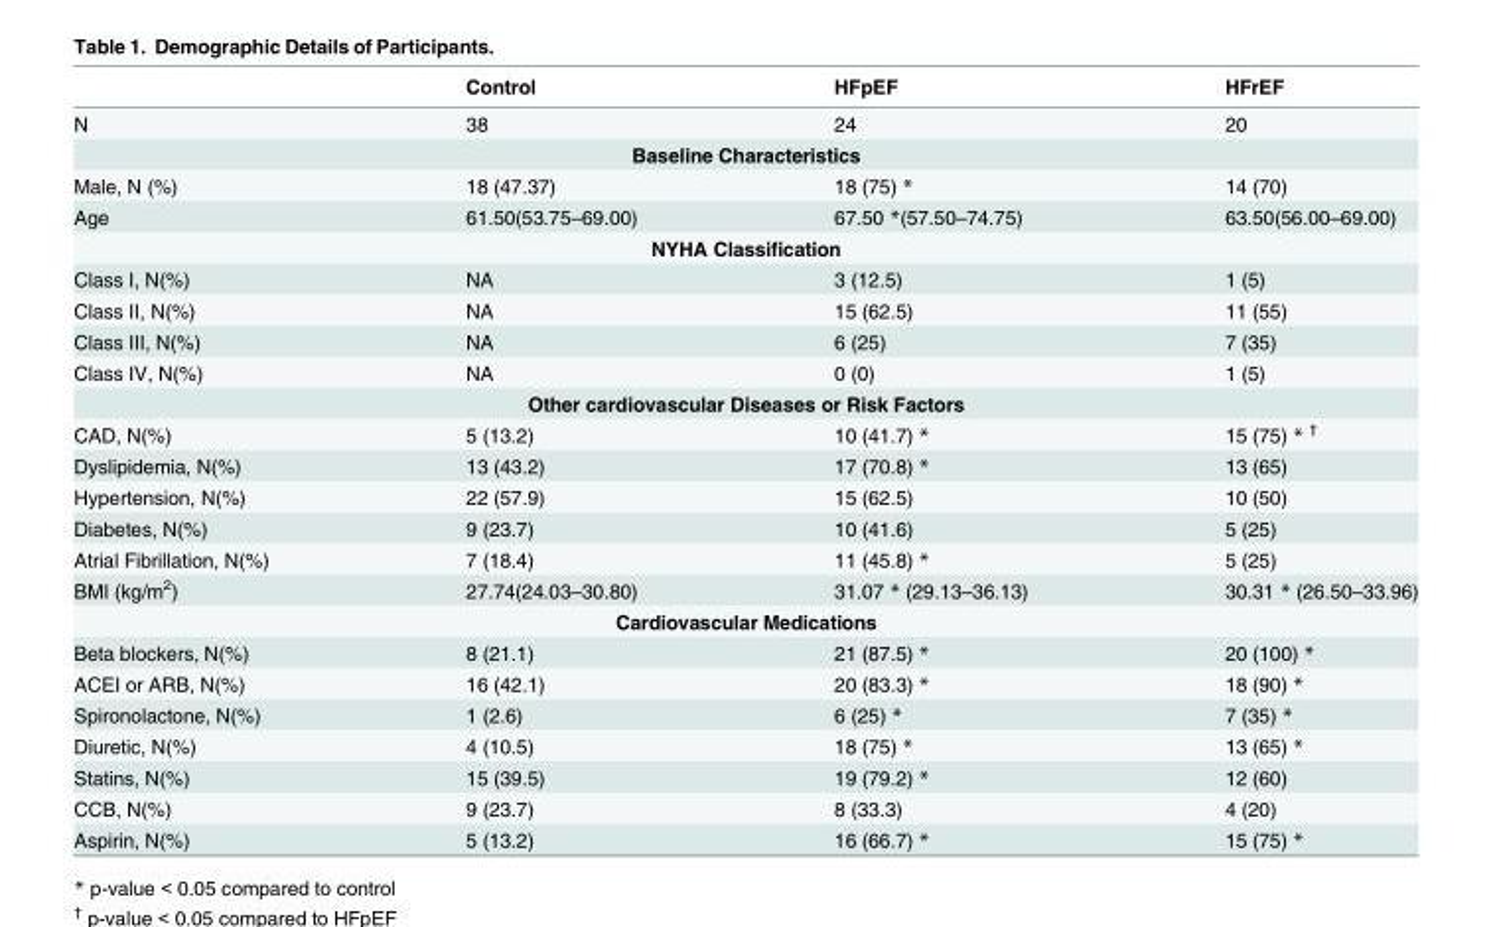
<table><thead><tr><td></td><td>Control</td><td>HFpEF</td><td>HFrEF</td></tr></thead><tbody><tr><td>N</td><td>38</td><td>24</td><td>20</td></tr><tr><td colspan="4">Baseline Characteristics</td></tr><tr><td>Male, N (%)</td><td>18 (47.37)</td><td>18 (75) *</td><td>14 (70)</td></tr><tr><td>Age</td><td>61.50(53.75–69.00)</td><td>67.50 *(57.50–74.75)</td><td>63.50(56.00–69.00)</td></tr><tr><td colspan="4">NYHA Classification</td></tr><tr><td>Class I, N(%)</td><td>NA</td><td>3 (12.5)</td><td>1 (5)</td></tr><tr><td>Class II, N(%)</td><td>NA</td><td>15 (62.5)</td><td>11 (55)</td></tr><tr><td>Class III, N(%)</td><td>NA</td><td>6 (25)</td><td>7 (35)</td></tr><tr><td>Class IV, N(%)</td><td>NA</td><td>0 (0)</td><td>1 (5)</td></tr><tr><td colspan="4">Other cardiovascular Diseases or Risk Factors</td></tr><tr><td>CAD, N(%)</td><td>5 (13.2)</td><td>10 (41.7) *</td><td>15 (75) * <sup>†</sup></td></tr><tr><td>Dyslipidemia, N(%)</td><td>13 (43.2)</td><td>17 (70.8) *</td><td>13 (65)</td></tr><tr><td>Hypertension, N(%)</td><td>22 (57.9)</td><td>15 (62.5)</td><td>10 (50)</td></tr><tr><td>Diabetes, N(%)</td><td>9 (23.7)</td><td>10 (41.6)</td><td>5 (25)</td></tr><tr><td>Atrial Fibrillation, N(%)</td><td>7 (18.4)</td><td>11 (45.8) *</td><td>5 (25)</td></tr><tr><td>BMI (kg/m<sup>2</sup>)</td><td>27.74(24.03–30.80)</td><td>31.07 * (29.13–36.13)</td><td>30.31 * (26.50–33.96)</td></tr><tr><td colspan="4">Cardiovascular Medications</td></tr><tr><td>Beta blockers, N(%)</td><td>8 (21.1)</td><td>21 (87.5) *</td><td>20 (100) *</td></tr><tr><td>ACEI or ARB, N(%)</td><td>16 (42.1)</td><td>20 (83.3) *</td><td>18 (90) *</td></tr><tr><td>Spironolactone, N(%)</td><td>1 (2.6)</td><td>6 (25) *</td><td>7 (35) *</td></tr><tr><td>Diuretic, N(%)</td><td>4 (10.5)</td><td>18 (75) *</td><td>13 (65) *</td></tr><tr><td>Statins, N(%)</td><td>15 (39.5)</td><td>19 (79.2) *</td><td>12 (60)</td></tr><tr><td>CCB, N(%)</td><td>9 (23.7)</td><td>8 (33.3)</td><td>4 (20)</td></tr><tr><td>Aspirin, N(%)</td><td>5 (13.2)</td><td>16 (66.7) *</td><td>15 (75) *</td></tr></tbody></table>